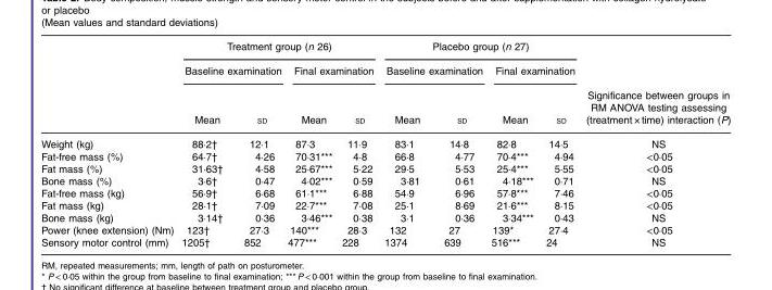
<table><thead><tr><td rowspan="3"></td><td colspan="4">Treatment group (n 26)</td><td colspan="4">Placebo group (n 27)</td><td rowspan="3">Significance between groups in RM ANOVA testing assessing (treatment × time) interaction (P)</td></tr><tr><td colspan="2">Baseline examination</td><td colspan="2">Final examination</td><td colspan="2">Baseline examination</td><td colspan="2">Final examination</td></tr><tr><td>Mean</td><td>SD</td><td>Mean</td><td>SD</td><td>Mean</td><td>SD</td><td>Mean</td><td>SD</td></tr></thead><tbody><tr><td>Weight (kg)</td><td>88·2†</td><td>12·1</td><td>87·3</td><td>11·9</td><td>83·1</td><td>14·8</td><td>82·8</td><td>14·5</td><td>NS</td></tr><tr><td>Fat-free mass (%)</td><td>64·7†</td><td>4·26</td><td>70·31***</td><td>4·8</td><td>66·8</td><td>4·77</td><td>70·4***</td><td>4·94</td><td>&lt;0·05</td></tr><tr><td>Fat mass (%)</td><td>31·63†</td><td>4·58</td><td>25·67***</td><td>5·22</td><td>29·5</td><td>5·53</td><td>25·4***</td><td>5·55</td><td>&lt;0·05</td></tr><tr><td>Bone mass (%)</td><td>3·6†</td><td>0·47</td><td>4·02***</td><td>0·59</td><td>3·81</td><td>0·61</td><td>4·18***</td><td>0·71</td><td>NS</td></tr><tr><td>Fat-free mass (kg)</td><td>56·9†</td><td>6·68</td><td>61·1***</td><td>6·88</td><td>54·9</td><td>6·96</td><td>57·8***</td><td>7·46</td><td>&lt;0·05</td></tr><tr><td>Fat mass (kg)</td><td>28·1†</td><td>7·09</td><td>22·7***</td><td>7·08</td><td>25·1</td><td>8·69</td><td>21·6***</td><td>8·15</td><td>&lt;0·05</td></tr><tr><td>Bone mass (kg)</td><td>3·14†</td><td>0·36</td><td>3·46***</td><td>0·38</td><td>3·1</td><td>0·36</td><td>3·34***</td><td>0·43</td><td>NS</td></tr><tr><td>Power (knee extension) (Nm)</td><td>123†</td><td>27·3</td><td>140***</td><td>28·3</td><td>132</td><td>27</td><td>139*</td><td>27·4</td><td>&lt;0·05</td></tr><tr><td>Sensory motor control (mm)</td><td>1205†</td><td>852</td><td>477***</td><td>228</td><td>1374</td><td>639</td><td>516***</td><td>24</td><td>NS</td></tr></tbody></table>